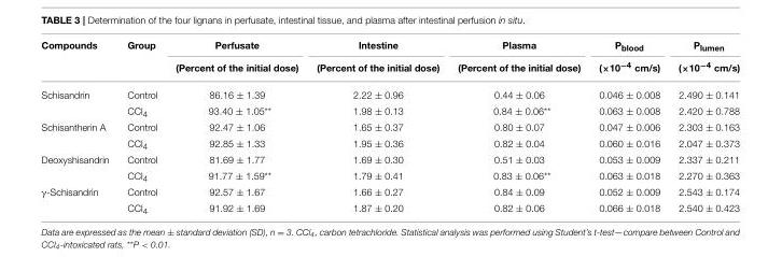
<table><thead><tr><td rowspan="2">Compounds</td><td rowspan="2">Group</td><td rowspan="2">Perfusate (Percent of the initial dose)</td><td rowspan="2">Intestine (Percent of the initial dose)</td><td rowspan="2">Plasma (Percent of the initial dose)</td><td rowspan="2">P<sub>blood</sub> (×10<sup>−4</sup> cm/s)</td><td rowspan="2">P<sub>lumen</sub> (×10<sup>−4</sup> cm/s)</td></tr><tr></tr></thead><tbody><tr><td rowspan="2">Schisandrin</td><td>Control</td><td>86.16 ± 1.39</td><td>2.22 ± 0.96</td><td>0.44 ± 0.06</td><td>0.046 ± 0.008</td><td>2.490 ± 0.141</td></tr><tr><td>CCl<sub>4</sub></td><td>93.40 ± 1.05**</td><td>1.98 ± 0.13</td><td>0.84 ± 0.06**</td><td>0.063 ± 0.008</td><td>2.420 ± 0.788</td></tr><tr><td rowspan="2">Schisantherin A</td><td>Control</td><td>92.47 ± 1.06</td><td>1.65 ± 0.37</td><td>0.80 ± 0.07</td><td>0.047 ± 0.006</td><td>2.303 ± 0.163</td></tr><tr><td>CCl<sub>4</sub></td><td>92.85 ± 1.33</td><td>1.95 ± 0.36</td><td>0.82 ± 0.04</td><td>0.060 ± 0.016</td><td>2.047 ± 0.373</td></tr><tr><td rowspan="2">Deoxyshisandrin</td><td>Control</td><td>81.69 ± 1.77</td><td>1.69 ± 0.30</td><td>0.51 ± 0.03</td><td>0.053 ± 0.009</td><td>2.337 ± 0.211</td></tr><tr><td>CCl<sub>4</sub></td><td>91.77 ± 1.59**</td><td>1.79 ± 0.41</td><td>0.83 ± 0.06**</td><td>0.063 ± 0.018</td><td>2.270 ± 0.363</td></tr><tr><td rowspan="2">γ-Schisandrin</td><td>Control</td><td>92.57 ± 1.67</td><td>1.66 ± 0.27</td><td>0.84 ± 0.09</td><td>0.052 ± 0.009</td><td>2.543 ± 0.174</td></tr><tr><td>CCl<sub>4</sub></td><td>91.92 ± 1.69</td><td>1.87 ± 0.20</td><td>0.82 ± 0.06</td><td>0.066 ± 0.018</td><td>2.540 ± 0.423</td></tr></tbody></table>